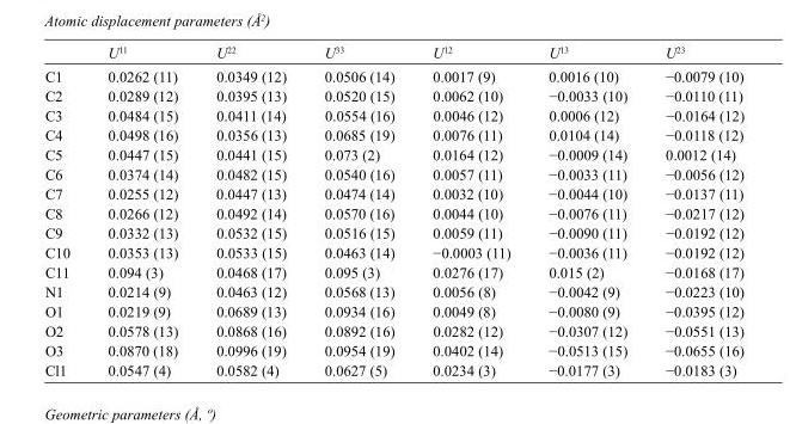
<table><thead><tr><td></td><td>U<sup>11</sup></td><td>U<sup>22</sup></td><td>U<sup>33</sup></td><td>U<sup>12</sup></td><td>U<sup>13</sup></td><td>U<sup>23</sup></td></tr></thead><tbody><tr><td>C1</td><td>0.0262 (11)</td><td>0.0349 (12)</td><td>0.0506 (14)</td><td>0.0017 (9)</td><td>0.0016 (10)</td><td>−0.0079 (10)</td></tr><tr><td>C2</td><td>0.0289 (12)</td><td>0.0395 (13)</td><td>0.0520 (15)</td><td>0.0062 (10)</td><td>−0.0033 (10)</td><td>−0.0110 (11)</td></tr><tr><td>C3</td><td>0.0484 (15)</td><td>0.0411 (14)</td><td>0.0554 (16)</td><td>0.0046 (12)</td><td>0.0006 (12)</td><td>−0.0164 (12)</td></tr><tr><td>C4</td><td>0.0498 (16)</td><td>0.0356 (13)</td><td>0.0685 (19)</td><td>0.0076 (11)</td><td>0.0104 (14)</td><td>−0.0118 (12)</td></tr><tr><td>C5</td><td>0.0447 (15)</td><td>0.0441 (15)</td><td>0.073 (2)</td><td>0.0164 (12)</td><td>−0.0009 (14)</td><td>0.0012 (14)</td></tr><tr><td>C6</td><td>0.0374 (14)</td><td>0.0482 (15)</td><td>0.0540 (16)</td><td>0.0057 (11)</td><td>−0.0033 (11)</td><td>−0.0056 (12)</td></tr><tr><td>C7</td><td>0.0255 (12)</td><td>0.0447 (13)</td><td>0.0474 (14)</td><td>0.0032 (10)</td><td>−0.0044 (10)</td><td>−0.0137 (11)</td></tr><tr><td>C8</td><td>0.0266 (12)</td><td>0.0492 (14)</td><td>0.0570 (16)</td><td>0.0044 (10)</td><td>−0.0076 (11)</td><td>−0.0217 (12)</td></tr><tr><td>C9</td><td>0.0332 (13)</td><td>0.0532 (15)</td><td>0.0516 (15)</td><td>0.0059 (11)</td><td>−0.0090 (11)</td><td>−0.0192 (12)</td></tr><tr><td>C10</td><td>0.0353 (13)</td><td>0.0533 (15)</td><td>0.0463 (14)</td><td>−0.0003 (11)</td><td>−0.0036 (11)</td><td>−0.0192 (12)</td></tr><tr><td>C11</td><td>0.094 (3)</td><td>0.0468 (17)</td><td>0.095 (3)</td><td>0.0276 (17)</td><td>0.015 (2)</td><td>−0.0168 (17)</td></tr><tr><td>N1</td><td>0.0214 (9)</td><td>0.0463 (12)</td><td>0.0568 (13)</td><td>0.0056 (8)</td><td>−0.0042 (9)</td><td>−0.0223 (10)</td></tr><tr><td>O1</td><td>0.0219 (9)</td><td>0.0689 (13)</td><td>0.0934 (16)</td><td>0.0049 (8)</td><td>−0.0080 (9)</td><td>−0.0395 (12)</td></tr><tr><td>O2</td><td>0.0578 (13)</td><td>0.0868 (16)</td><td>0.0892 (16)</td><td>0.0282 (12)</td><td>−0.0307 (12)</td><td>−0.0551 (13)</td></tr><tr><td>O3</td><td>0.0870 (18)</td><td>0.0996 (19)</td><td>0.0954 (19)</td><td>0.0402 (14)</td><td>−0.0513 (15)</td><td>−0.0655 (16)</td></tr><tr><td>Cl1</td><td>0.0547 (4)</td><td>0.0582 (4)</td><td>0.0627 (5)</td><td>0.0234 (3)</td><td>−0.0177 (3)</td><td>−0.0183 (3)</td></tr></tbody></table>